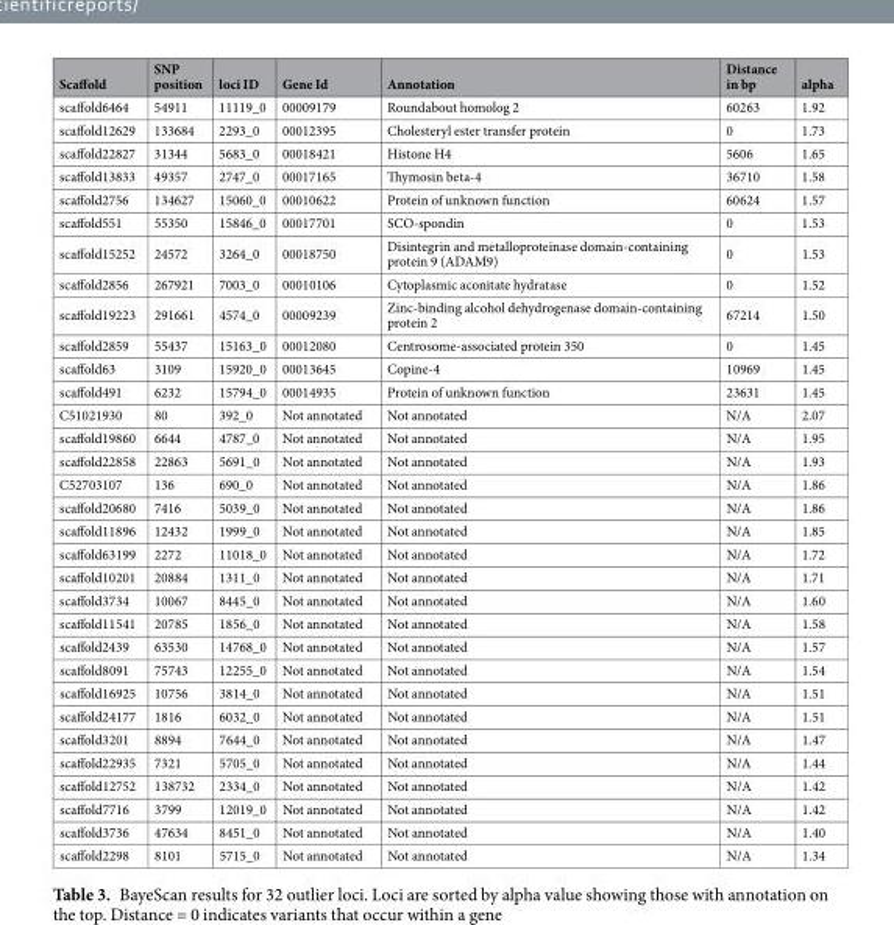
<table><thead><tr><td>Scaffold</td><td>SNP position</td><td>loci ID</td><td>Gene Id</td><td>Annotation</td><td>Distance in bp</td><td>alpha</td></tr></thead><tbody><tr><td>scaffold6464</td><td>54911</td><td>11119_0</td><td>00009179</td><td>Roundabout homolog 2</td><td>60263</td><td>1.92</td></tr><tr><td>scaffold12629</td><td>133684</td><td>2293_0</td><td>00012395</td><td>Cholesteryl ester transfer protein</td><td>0</td><td>1.73</td></tr><tr><td>scaffold22827</td><td>31344</td><td>5683_0</td><td>00018421</td><td>Histone H4</td><td>5606</td><td>1.65</td></tr><tr><td>scaffold13833</td><td>49357</td><td>2747_0</td><td>00017165</td><td>Thymosin beta-4</td><td>36710</td><td>1.58</td></tr><tr><td>scaffold2756</td><td>134627</td><td>15060_0</td><td>00010622</td><td>Protein of unknown function</td><td>60624</td><td>1.57</td></tr><tr><td>scaffold551</td><td>55350</td><td>15846_0</td><td>00017701</td><td>SCO-spondin</td><td>0</td><td>1.53</td></tr><tr><td>scaffold15252</td><td>24572</td><td>3264_0</td><td>00018750</td><td>Disintegrin and metalloproteinase domain-containing protein 9 (ADAM9)</td><td>0</td><td>1.53</td></tr><tr><td>scaffold2856</td><td>267921</td><td>7003_0</td><td>00010106</td><td>Cytoplasmic aconitate hydratase</td><td>0</td><td>1.52</td></tr><tr><td>scaffold19223</td><td>291661</td><td>4574_0</td><td>00009239</td><td>Zinc-binding alcohol dehydrogenase domain-containing protein 2</td><td>67214</td><td>1.50</td></tr><tr><td>scaffold2859</td><td>55437</td><td>15163_0</td><td>00012080</td><td>Centrosome-associated protein 350</td><td>0</td><td>1.45</td></tr><tr><td>scaffold63</td><td>3109</td><td>15920_0</td><td>00013645</td><td>Copine-4</td><td>10969</td><td>1.45</td></tr><tr><td>scaffold491</td><td>6232</td><td>15794_0</td><td>00014935</td><td>Protein of unknown function</td><td>23631</td><td>1.45</td></tr><tr><td>C51021930</td><td>80</td><td>392_0</td><td>Not annotated</td><td>Not annotated</td><td>N/A</td><td>2.07</td></tr><tr><td>scaffold19860</td><td>6644</td><td>4787_0</td><td>Not annotated</td><td>Not annotated</td><td>N/A</td><td>1.95</td></tr><tr><td>scaffold22858</td><td>22863</td><td>5691_0</td><td>Not annotated</td><td>Not annotated</td><td>N/A</td><td>1.93</td></tr><tr><td>C52703107</td><td>136</td><td>690_0</td><td>Not annotated</td><td>Not annotated</td><td>N/A</td><td>1.86</td></tr><tr><td>scaffold20680</td><td>7416</td><td>5039_0</td><td>Not annotated</td><td>Not annotated</td><td>N/A</td><td>1.86</td></tr><tr><td>scaffold11896</td><td>12432</td><td>1999_0</td><td>Not annotated</td><td>Not annotated</td><td>N/A</td><td>1.85</td></tr><tr><td>scaffold63199</td><td>2272</td><td>11018_0</td><td>Not annotated</td><td>Not annotated</td><td>N/A</td><td>1.72</td></tr><tr><td>scaffold10201</td><td>20884</td><td>1311_0</td><td>Not annotated</td><td>Not annotated</td><td>N/A</td><td>1.71</td></tr><tr><td>scaffold3734</td><td>10067</td><td>8445_0</td><td>Not annotated</td><td>Not annotated</td><td>N/A</td><td>1.60</td></tr><tr><td>scaffold11541</td><td>20785</td><td>1856_0</td><td>Not annotated</td><td>Not annotated</td><td>N/A</td><td>1.58</td></tr><tr><td>scaffold2439</td><td>63530</td><td>14768_0</td><td>Not annotated</td><td>Not annotated</td><td>N/A</td><td>1.57</td></tr><tr><td>scaffold8091</td><td>75743</td><td>12255_0</td><td>Not annotated</td><td>Not annotated</td><td>N/A</td><td>1.54</td></tr><tr><td>scaffold16925</td><td>10756</td><td>3814_0</td><td>Not annotated</td><td>Not annotated</td><td>N/A</td><td>1.51</td></tr><tr><td>scaffold24177</td><td>1816</td><td>6032_0</td><td>Not annotated</td><td>Not annotated</td><td>N/A</td><td>1.51</td></tr><tr><td>scaffold3201</td><td>8894</td><td>7644_0</td><td>Not annotated</td><td>Not annotated</td><td>N/A</td><td>1.47</td></tr><tr><td>scaffold22935</td><td>7321</td><td>5705_0</td><td>Not annotated</td><td>Not annotated</td><td>N/A</td><td>1.44</td></tr><tr><td>scaffold12752</td><td>138732</td><td>2334_0</td><td>Not annotated</td><td>Not annotated</td><td>N/A</td><td>1.42</td></tr><tr><td>scaffold7716</td><td>3799</td><td>12019_0</td><td>Not annotated</td><td>Not annotated</td><td>N/A</td><td>1.42</td></tr><tr><td>scaffold3736</td><td>47634</td><td>8451_0</td><td>Not annotated</td><td>Not annotated</td><td>N/A</td><td>1.40</td></tr><tr><td>scaffold2298</td><td>8101</td><td>5715_0</td><td>Not annotated</td><td>Not annotated</td><td>N/A</td><td>1.34</td></tr></tbody></table>